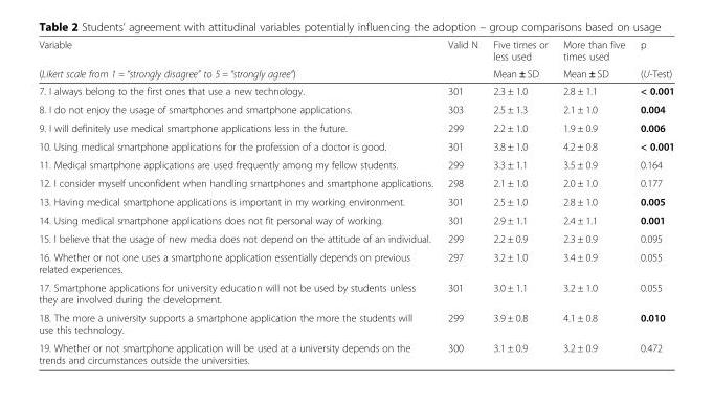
<table><thead><tr><td rowspan="2">Variable (Likert scale from 1 = “strongly disagree” to 5 = “strongly agree“)</td><td rowspan="2">Valid N</td><td rowspan="2">Five times or less used Mean ± SD</td><td rowspan="2">More than five times used Mean ± SD</td><td rowspan="2">p (U-Test)</td></tr><tr></tr></thead><tbody><tr><td>7. I always belong to the first ones that use a new technology.</td><td>301</td><td>2.3 ± 1.0</td><td>2.8 ± 1.1</td><td>&lt; 0.001</td></tr><tr><td>8. I do not enjoy the usage of smartphones and smartphone applications.</td><td>303</td><td>2.5 ± 1.3</td><td>2.1 ± 1.0</td><td>0.004</td></tr><tr><td>9. I will definitely use medical smartphone applications less in the future.</td><td>299</td><td>2.2 ± 1.0</td><td>1.9 ± 0.9</td><td>0.006</td></tr><tr><td>10. Using medical smartphone applications for the profession of a doctor is good.</td><td>301</td><td>3.8 ± 1.0</td><td>4.2 ± 0.8</td><td>&lt; 0.001</td></tr><tr><td>11. Medical smartphone applications are used frequently among my fellow students.</td><td>299</td><td>3.3 ± 1.1</td><td>3.5 ± 0.9</td><td>0.164</td></tr><tr><td>12. I consider myself unconfident when handling smartphones and smartphone applications.</td><td>298</td><td>2.1 ± 1.0</td><td>2.0 ± 1.0</td><td>0.177</td></tr><tr><td>13. Having medical smartphone applications is important in my working environment.</td><td>301</td><td>2.5 ± 1.0</td><td>2.8 ± 1.0</td><td>0.005</td></tr><tr><td>14. Using medical smartphone applications does not fit personal way of working.</td><td>301</td><td>2.9 ± 1.1</td><td>2.4 ± 1.1</td><td>0.001</td></tr><tr><td>15. I believe that the usage of new media does not depend on the attitude of an individual.</td><td>299</td><td>2.2 ± 0.9</td><td>2.3 ± 0.9</td><td>0.095</td></tr><tr><td>16. Whether or not one uses a smartphone application essentially depends on previous related experiences.</td><td>297</td><td>3.2 ± 1.0</td><td>3.4 ± 0.9</td><td>0.055</td></tr><tr><td>17. Smartphone applications for university education will not be used by students unless they are involved during the development.</td><td>301</td><td>3.0 ± 1.1</td><td>3.2 ± 1.0</td><td>0.055</td></tr><tr><td>18. The more a university supports a smartphone application the more the students will use this technology.</td><td>299</td><td>3.9 ± 0.8</td><td>4.1 ± 0.8</td><td>0.010</td></tr><tr><td>19. Whether or not smartphone application will be used at a university depends on the trends and circumstances outside the universities.</td><td>300</td><td>3.1 ± 0.9</td><td>3.2 ± 0.9</td><td>0.472</td></tr></tbody></table>